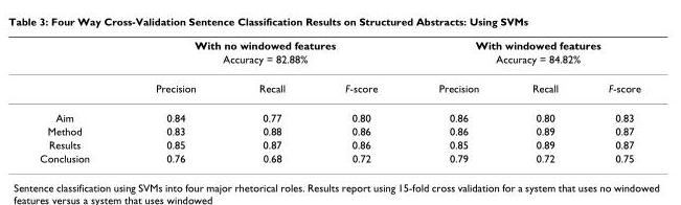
<table><thead><tr><td rowspan="3"></td><td rowspan="2" colspan="3">With no windowed features Accuracy = 82.88%</td><td rowspan="2" colspan="3">With windowed features Accuracy = 84.82%</td></tr><tr></tr><tr><td>Precision</td><td>Recall</td><td>F-score</td><td>Precision</td><td>Recall</td><td>F-score</td></tr></thead><tbody><tr><td>Aim</td><td>0.84</td><td>0.77</td><td>0.80</td><td>0.86</td><td>0.80</td><td>0.83</td></tr><tr><td>Method</td><td>0.83</td><td>0.88</td><td>0.86</td><td>0.86</td><td>0.89</td><td>0.87</td></tr><tr><td>Results</td><td>0.85</td><td>0.87</td><td>0.86</td><td>0.85</td><td>0.89</td><td>0.87</td></tr><tr><td>Conclusion</td><td>0.76</td><td>0.68</td><td>0.72</td><td>0.79</td><td>0.72</td><td>0.75</td></tr></tbody></table>